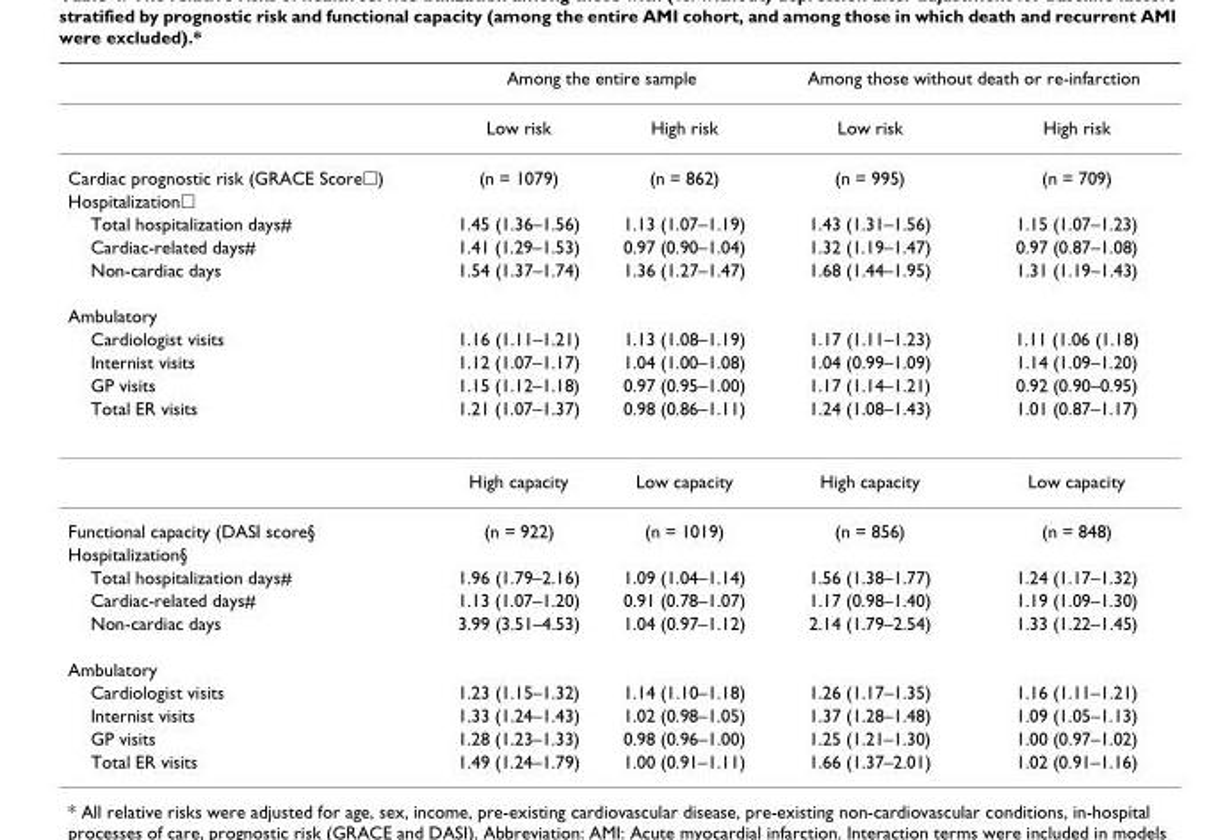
<table><thead><tr><td rowspan="2"></td><td colspan="2">Among the entire sample</td><td colspan="2">Among those without death or re-infarction</td></tr><tr><td>Low risk</td><td>High risk</td><td>Low risk</td><td>High risk</td></tr></thead><tbody><tr><td>Cardiac prognostic risk (GRACE Score⌷)</td><td>(n = 1079)</td><td>(n = 862)</td><td>(n = 995)</td><td>(n = 709)</td></tr><tr><td colspan="5">Hospitalization□</td></tr><tr><td>Total hospitalization days#</td><td>1.45 (1.36–1.56)</td><td>1.13 (1.07–1.19)</td><td>1.43 (1.31–1.56)</td><td>1.15 (1.07–1.23)</td></tr><tr><td>Cardiac-related days#</td><td>1.41 (1.29–1.53)</td><td>0.97 (0.90–1.04)</td><td>1.32 (1.19–1.47)</td><td>0.97 (0.87–1.08)</td></tr><tr><td>Non-cardiac days</td><td>1.54 (1.37–1.74)</td><td>1.36 (1.27–1.47)</td><td>1.68 (1.44–1.95)</td><td>1.31 (1.19–1.43)</td></tr><tr><td colspan="5">Ambulatory</td></tr><tr><td>Cardiologist visits</td><td>1.16 (1.11–1.21)</td><td>1.13 (1.08–1.19)</td><td>1.17 (1.11–1.23)</td><td>1.11 (1.06 (1.18)</td></tr><tr><td>Internist visits</td><td>1.12 (1.07–1.17)</td><td>1.04 (1.00–1.08)</td><td>1.04 (0.99–1.09)</td><td>1.14 (1.09–1.20)</td></tr><tr><td>GP visits</td><td>1.15 (1.12–1.18)</td><td>0.97 (0.95–1.00)</td><td>1.17 (1.14–1.21)</td><td>0.92 (0.90–0.95)</td></tr><tr><td rowspan="2">Total ER visits</td><td>1.21 (1.07–1.37)</td><td>0.98 (0.86–1.11)</td><td>1.24 (1.08–1.43)</td><td>1.01 (0.87–1.17)</td></tr><tr><td>High capacity</td><td>Low capacity</td><td>High capacity</td><td>Low capacity</td></tr><tr><td>Functional capacity (DASI score§</td><td>(n = 922)</td><td>(n = 1019)</td><td>(n = 856)</td><td>(n = 848)</td></tr><tr><td colspan="5">Hospitalization§</td></tr><tr><td>Total hospitalization days#</td><td>1.96 (1.79–2.16)</td><td>1.09 (1.04–1.14)</td><td>1.56 (1.38–1.77)</td><td>1.24 (1.17–1.32)</td></tr><tr><td>Cardiac-related days#</td><td>1.13 (1.07–1.20)</td><td>0.91 (0.78–1.07)</td><td>1.17 (0.98–1.40)</td><td>1.19 (1.09–1.30)</td></tr><tr><td>Non-cardiac days</td><td>3.99 (3.51–4.53)</td><td>1.04 (0.97–1.12)</td><td>2.14 (1.79–2.54)</td><td>1.33 (1.22–1.45)</td></tr><tr><td colspan="5">Ambulatory</td></tr><tr><td>Cardiologist visits</td><td>1.23 (1.15–1.32)</td><td>1.14 (1.10–1.18)</td><td>1.26 (1.17–1.35)</td><td>1.16 (1.11–1.21)</td></tr><tr><td>Internist visits</td><td>1.33 (1.24–1.43)</td><td>1.02 (0.98–1.05)</td><td>1.37 (1.28–1.48)</td><td>1.09 (1.05–1.13)</td></tr><tr><td>GP visits</td><td>1.28 (1.23–1.33)</td><td>0.98 (0.96–1.00)</td><td>1.25 (1.21–1.30)</td><td>1.00 (0.97–1.02)</td></tr><tr><td>Total ER visits</td><td>1.49 (1.24–1.79)</td><td>1.00 (0.91–1.11)</td><td>1.66 (1.37–2.01)</td><td>1.02 (0.91–1.16)</td></tr></tbody></table>